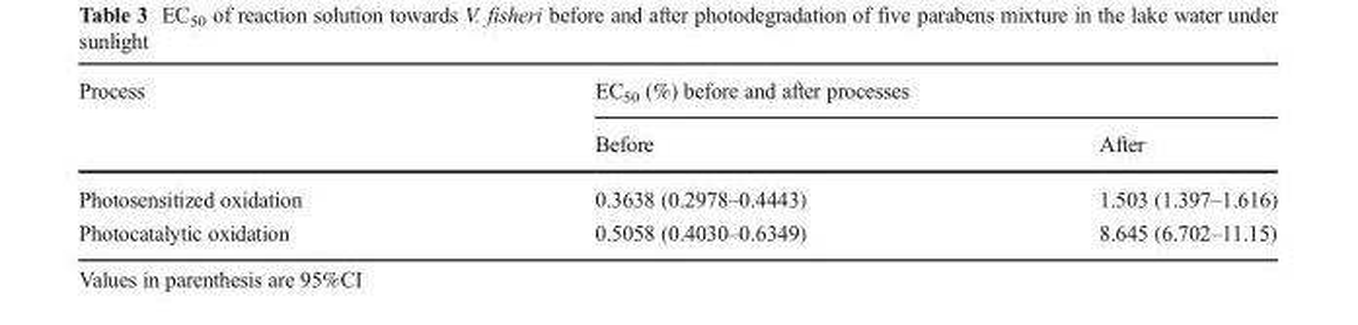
<table><thead><tr><td rowspan="2">Process</td><td colspan="2">EC<sub>50</sub> (%) before and after processes</td></tr><tr><td>Before</td><td>After</td></tr></thead><tbody><tr><td>Photosensitized oxidation</td><td>0.3638 (0.2978–0.4443)</td><td>1.503 (1.397–1.616)</td></tr><tr><td>Photocatalytic oxidation</td><td>0.5058 (0.4030–0.6349)</td><td>8.645 (6.702–11.15)</td></tr></tbody></table>